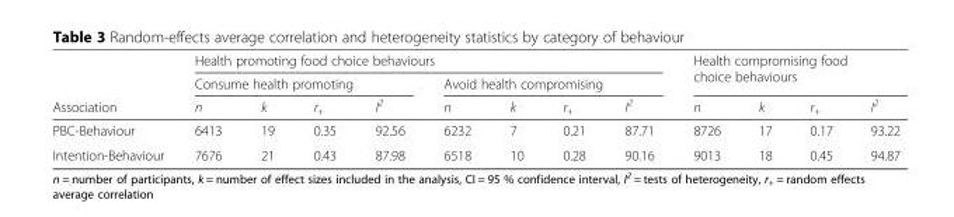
<table><thead><tr><td rowspan="3">Association</td><td colspan="8">Health promoting food choice behaviours</td><td rowspan="2" colspan="4">Health compromising food choice behaviours</td></tr><tr><td colspan="4">Consume health promoting</td><td colspan="4">Avoid health compromising</td></tr><tr><td>n</td><td>k</td><td>r<sub>+</sub></td><td>I<sup>2</sup></td><td>n</td><td>k</td><td>r<sub>+</sub></td><td>I<sup>2</sup></td><td>n</td><td>k</td><td>r<sub>+</sub></td><td>I<sup>2</sup></td></tr></thead><tbody><tr><td>PBC-Behaviour</td><td>6413</td><td>19</td><td>0.35</td><td>92.56</td><td>6232</td><td>7</td><td>0.21</td><td>87.71</td><td>8726</td><td>17</td><td>0.17</td><td>93.22</td></tr><tr><td>Intention-Behaviour</td><td>7676</td><td>21</td><td>0.43</td><td>87.98</td><td>6518</td><td>10</td><td>0.28</td><td>90.16</td><td>9013</td><td>18</td><td>0.45</td><td>94.87</td></tr></tbody></table>